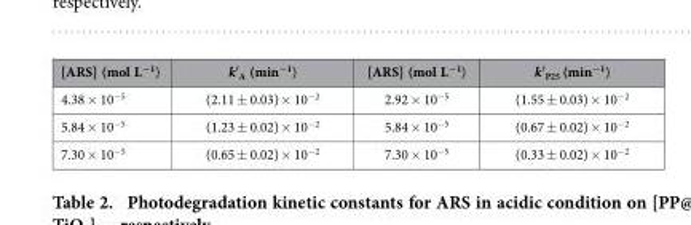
<table><thead><tr><td>[ARS] (mol L<sup>−1</sup>)</td><td>k′<sub>A</sub> (min<sup>−1</sup>)</td><td>[ARS] (mol L<sup>−1</sup>)</td><td>k′<sub>P25</sub> (min<sup>−1</sup>)</td></tr></thead><tbody><tr><td>4.38 × 10<sup>−5</sup></td><td>(2.11 ± 0.03) × 10<sup>−2</sup></td><td>2.92 × 10<sup>−5</sup></td><td>(1.55 ± 0.03) × 10<sup>−2</sup></td></tr><tr><td>5.84 × 10<sup>−5</sup></td><td>(1.23 ± 0.02) × 10<sup>−2</sup></td><td>5.84 × 10<sup>−5</sup></td><td>(0.67 ± 0.02) × 10<sup>−2</sup></td></tr><tr><td>7.30 × 10<sup>−5</sup></td><td>(0.65 ± 0.02) × 10<sup>−2</sup></td><td>7.30 × 10<sup>−5</sup></td><td>(0.33 ± 0.02) × 10<sup>−2</sup></td></tr></tbody></table>